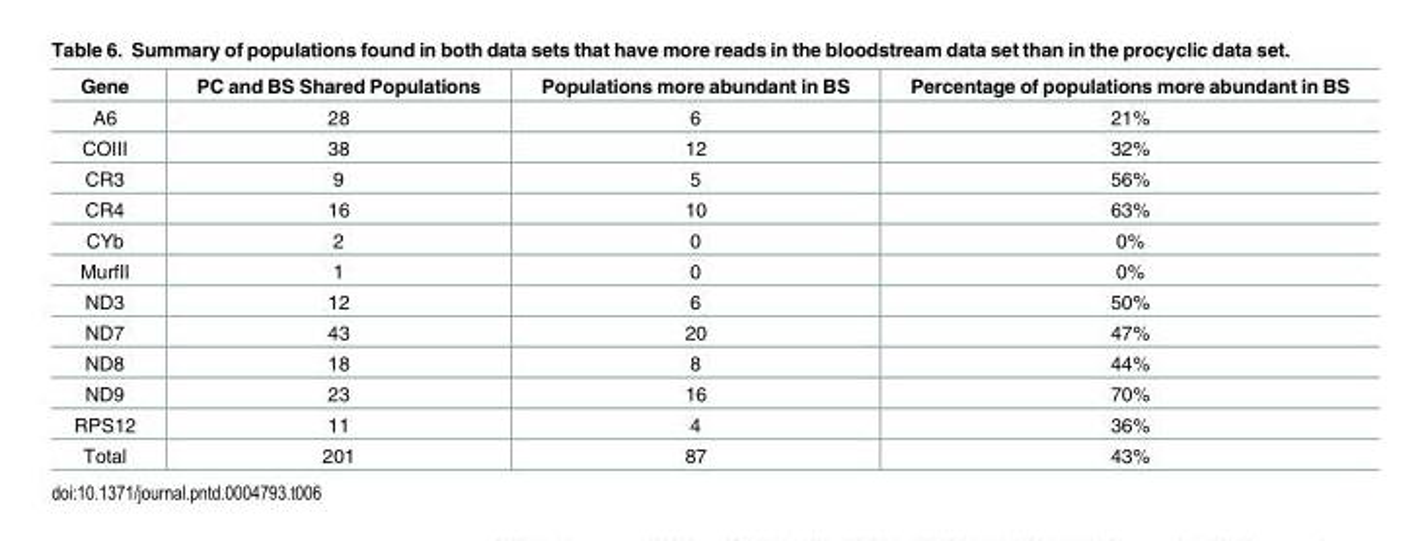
<table><thead><tr><td>Gene</td><td>PC and BS Shared Populations</td><td>Populations more abundant in BS</td><td>Percentage of populations more abundant in BS</td></tr></thead><tbody><tr><td>A6</td><td>28</td><td>6</td><td>21%</td></tr><tr><td>COIII</td><td>38</td><td>12</td><td>32%</td></tr><tr><td>CR3</td><td>9</td><td>5</td><td>56%</td></tr><tr><td>CR4</td><td>16</td><td>10</td><td>63%</td></tr><tr><td>CYb</td><td>2</td><td>0</td><td>0%</td></tr><tr><td>MurfII</td><td>1</td><td>0</td><td>0%</td></tr><tr><td>ND3</td><td>12</td><td>6</td><td>50%</td></tr><tr><td>ND7</td><td>43</td><td>20</td><td>47%</td></tr><tr><td>ND8</td><td>18</td><td>8</td><td>44%</td></tr><tr><td>ND9</td><td>23</td><td>16</td><td>70%</td></tr><tr><td>RPS12</td><td>11</td><td>4</td><td>36%</td></tr><tr><td>Total</td><td>201</td><td>87</td><td>43%</td></tr></tbody></table>